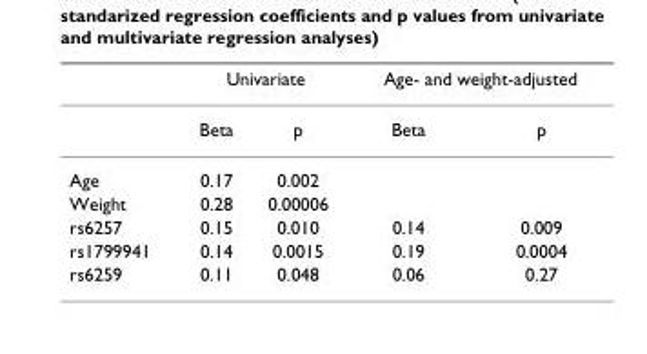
<table><thead><tr><td rowspan="2"></td><td colspan="2">Univariate</td><td colspan="2">Age- and weight-adjusted</td></tr><tr><td>Beta</td><td>p</td><td>Beta</td><td>p</td></tr></thead><tbody><tr><td>Age</td><td>0.17</td><td>0.002</td><td></td><td></td></tr><tr><td>Weight</td><td>0.28</td><td>0.00006</td><td></td><td></td></tr><tr><td>rs6257</td><td>0.15</td><td>0.010</td><td>0.14</td><td>0.009</td></tr><tr><td>rs1799941</td><td>0.14</td><td>0.0015</td><td>0.19</td><td>0.0004</td></tr><tr><td>rs6259</td><td>0.11</td><td>0.048</td><td>0.06</td><td>0.27</td></tr></tbody></table>